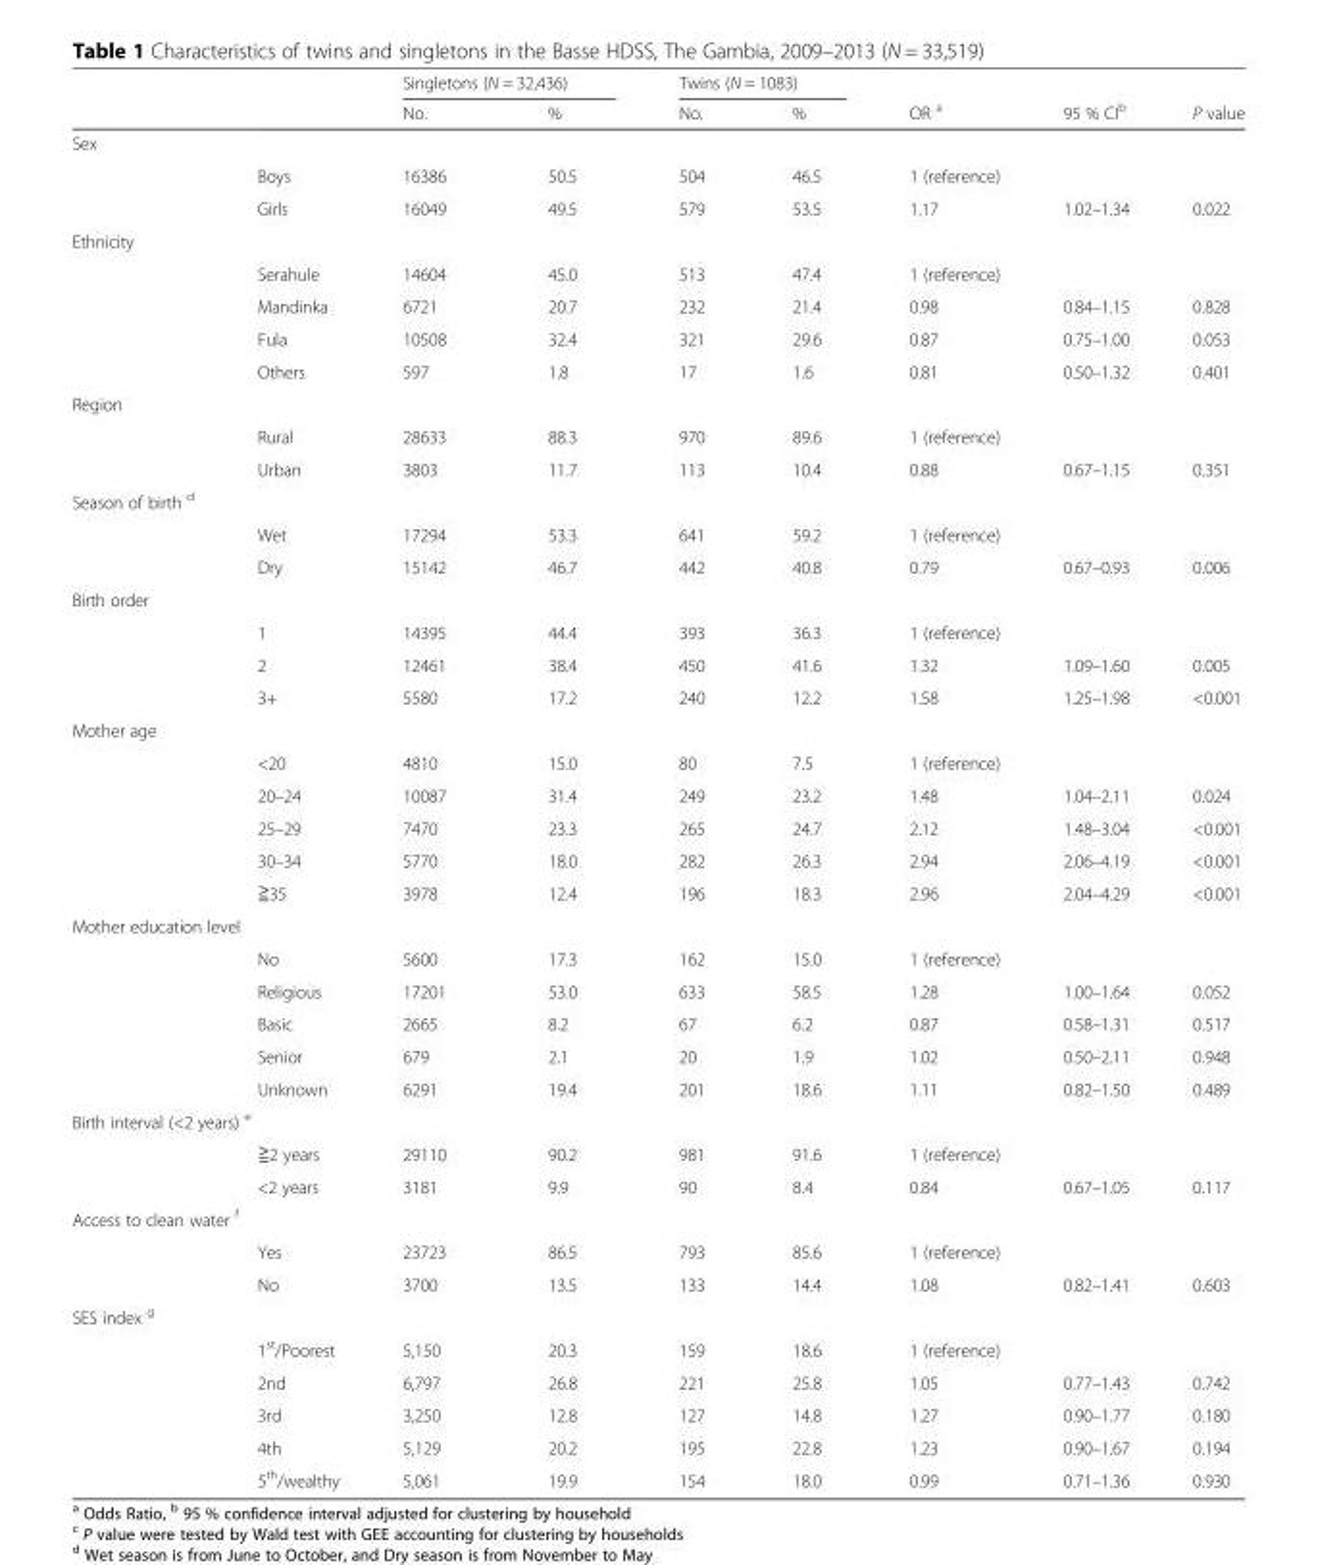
<table><thead><tr><td rowspan="2"></td><td rowspan="2"></td><td colspan="2">Singletons (N = 32,436)</td><td colspan="2">Twins (N = 1083)</td><td rowspan="2">OR <sup>a</sup></td><td rowspan="2">95 % CI<sup>b</sup></td><td rowspan="2">P value</td></tr><tr><td>No.</td><td>%</td><td>No.</td><td>%</td></tr></thead><tbody><tr><td colspan="9">Sex</td></tr><tr><td></td><td>Boys</td><td>16386</td><td>50.5</td><td>504</td><td>46.5</td><td>1 (reference)</td><td></td><td></td></tr><tr><td></td><td>Girls</td><td>16049</td><td>49.5</td><td>579</td><td>53.5</td><td>1.17</td><td>1.02–1.34</td><td>0.022</td></tr><tr><td colspan="9">Ethnicity</td></tr><tr><td></td><td>Serahule</td><td>14604</td><td>45.0</td><td>513</td><td>47.4</td><td>1 (reference)</td><td></td><td></td></tr><tr><td></td><td>Mandinka</td><td>6721</td><td>20.7</td><td>232</td><td>21.4</td><td>0.98</td><td>0.84–1.15</td><td>0.828</td></tr><tr><td></td><td>Fula</td><td>10508</td><td>32.4</td><td>321</td><td>29.6</td><td>0.87</td><td>0.75–1.00</td><td>0.053</td></tr><tr><td></td><td>Others</td><td>597</td><td>1.8</td><td>17</td><td>1.6</td><td>0.81</td><td>0.50–1.32</td><td>0.401</td></tr><tr><td colspan="9">Region</td></tr><tr><td></td><td>Rural</td><td>28633</td><td>88.3</td><td>970</td><td>89.6</td><td>1 (reference)</td><td></td><td></td></tr><tr><td></td><td>Urban</td><td>3803</td><td>11.7</td><td>113</td><td>10.4</td><td>0.88</td><td>0.67–1.15</td><td>0.351</td></tr><tr><td colspan="9">Season of birth <sup>d</sup></td></tr><tr><td></td><td>Wet</td><td>17294</td><td>53.3</td><td>641</td><td>59.2</td><td>1 (reference)</td><td></td><td></td></tr><tr><td></td><td>Dry</td><td>15142</td><td>46.7</td><td>442</td><td>40.8</td><td>0.79</td><td>0.67–0.93</td><td>0.006</td></tr><tr><td colspan="9">Birth order</td></tr><tr><td></td><td>1</td><td>14395</td><td>44.4</td><td>393</td><td>36.3</td><td>1 (reference)</td><td></td><td></td></tr><tr><td></td><td>2</td><td>12461</td><td>38.4</td><td>450</td><td>41.6</td><td>1.32</td><td>1.09–1.60</td><td>0.005</td></tr><tr><td></td><td>3+</td><td>5580</td><td>17.2</td><td>240</td><td>12.2</td><td>1.58</td><td>1.25–1.98</td><td>&lt;0.001</td></tr><tr><td colspan="9">Mother age</td></tr><tr><td></td><td>&lt;20</td><td>4810</td><td>15.0</td><td>80</td><td>7.5</td><td>1 (reference)</td><td></td><td></td></tr><tr><td></td><td>20–24</td><td>10087</td><td>31.4</td><td>249</td><td>23.2</td><td>1.48</td><td>1.04–2.11</td><td>0.024</td></tr><tr><td></td><td>25–29</td><td>7470</td><td>23.3</td><td>265</td><td>24.7</td><td>2.12</td><td>1.48–3.04</td><td>&lt;0.001</td></tr><tr><td></td><td>30–34</td><td>5770</td><td>18.0</td><td>282</td><td>26.3</td><td>2.94</td><td>2.06–4.19</td><td>&lt;0.001</td></tr><tr><td></td><td>≧35</td><td>3978</td><td>12.4</td><td>196</td><td>18.3</td><td>2.96</td><td>2.04–4.29</td><td>&lt;0.001</td></tr><tr><td colspan="9">Mother education level</td></tr><tr><td></td><td>No</td><td>5600</td><td>17.3</td><td>162</td><td>15.0</td><td>1 (reference)</td><td></td><td></td></tr><tr><td></td><td>Religious</td><td>17201</td><td>53.0</td><td>633</td><td>58.5</td><td>1.28</td><td>1.00–1.64</td><td>0.052</td></tr><tr><td></td><td>Basic</td><td>2665</td><td>8.2</td><td>67</td><td>6.2</td><td>0.87</td><td>0.58–1.31</td><td>0.517</td></tr><tr><td></td><td>Senior</td><td>679</td><td>2.1</td><td>20</td><td>1.9</td><td>1.02</td><td>0.50–2.11</td><td>0.948</td></tr><tr><td></td><td>Unknown</td><td>6291</td><td>19.4</td><td>201</td><td>18.6</td><td>1.11</td><td>0.82–1.50</td><td>0.489</td></tr><tr><td colspan="9">Birth interval (&lt;2 years) <sup>e</sup></td></tr><tr><td rowspan="2"></td><td>≧2 years</td><td>29110</td><td>90.2</td><td>981</td><td>91.6</td><td>1 (reference)</td><td></td><td></td></tr><tr><td>&lt;2 years</td><td>3181</td><td>9.9</td><td>90</td><td>8.4</td><td>0.84</td><td>0.67–1.05</td><td>0.117</td></tr><tr><td colspan="9">Access to clean water <sup>f</sup></td></tr><tr><td></td><td>Yes</td><td>23723</td><td>86.5</td><td>793</td><td>85.6</td><td>1 (reference)</td><td></td><td></td></tr><tr><td></td><td>No</td><td>3700</td><td>13.5</td><td>133</td><td>14.4</td><td>1.08</td><td>0.82–1.41</td><td>0.603</td></tr><tr><td colspan="9">SES index <sup>g</sup></td></tr><tr><td></td><td>1<sup>st</sup>/Poorest</td><td>5,150</td><td>20.3</td><td>159</td><td>18.6</td><td>1 (reference)</td><td></td><td></td></tr><tr><td></td><td>2nd</td><td>6,797</td><td>26.8</td><td>221</td><td>25.8</td><td>1.05</td><td>0.77–1.43</td><td>0.742</td></tr><tr><td></td><td>3rd</td><td>3,250</td><td>12.8</td><td>127</td><td>14.8</td><td>1.27</td><td>0.90–1.77</td><td>0.180</td></tr><tr><td></td><td>4th</td><td>5,129</td><td>20.2</td><td>195</td><td>22.8</td><td>1.23</td><td>0.90–1.67</td><td>0.194</td></tr><tr><td></td><td>5<sup>th</sup>/wealthy</td><td>5,061</td><td>19.9</td><td>154</td><td>18.0</td><td>0.99</td><td>0.71–1.36</td><td>0.930</td></tr></tbody></table>